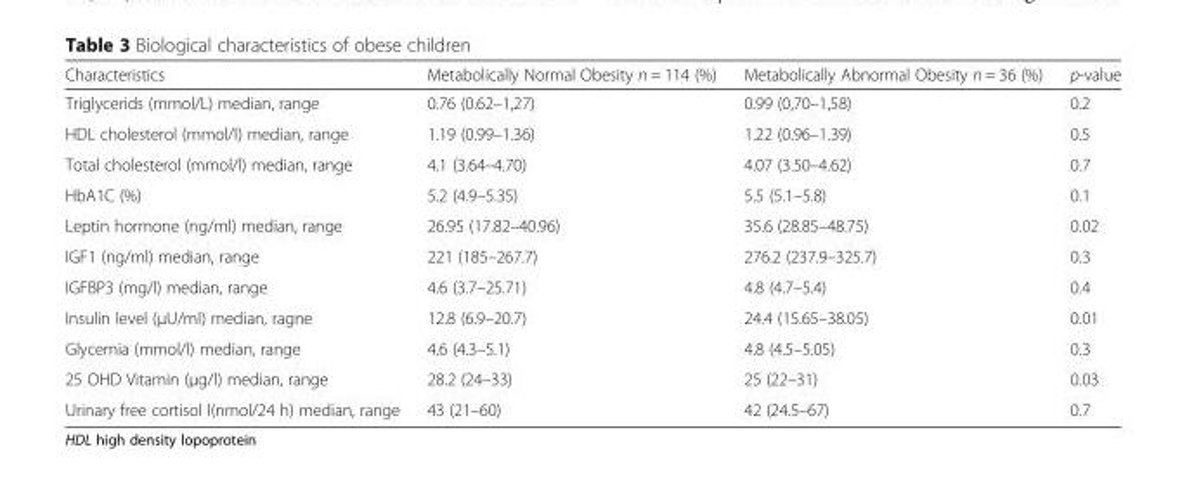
<table><thead><tr><td>Characteristics</td><td>Metabolically Normal Obesity n = 114 (%)</td><td>Metabolically Abnormal Obesity n = 36 (%)</td><td>p-value</td></tr></thead><tbody><tr><td>Triglycerids (mmol/L) median, range</td><td>0.76 (0.62–1,27)</td><td>0.99 (0,70–1,58)</td><td>0.2</td></tr><tr><td>HDL cholesterol (mmol/l) median, range</td><td>1.19 (0.99–1.36)</td><td>1.22 (0.96–1.39)</td><td>0.5</td></tr><tr><td>Total cholesterol (mmol/l) median, range</td><td>4.1 (3.64–4.70)</td><td>4.07 (3.50–4.62)</td><td>0.7</td></tr><tr><td>HbA1C (%)</td><td>5.2 (4.9–5.35)</td><td>5.5 (5.1–5.8)</td><td>0.1</td></tr><tr><td>Leptin hormone (ng/ml) median, range</td><td>26.95 (17.82–40.96)</td><td>35.6 (28.85–48.75)</td><td>0.02</td></tr><tr><td>IGF1 (ng/ml) median, range</td><td>221 (185–267.7)</td><td>276.2 (237.9–325.7)</td><td>0.3</td></tr><tr><td>IGFBP3 (mg/l) median, range</td><td>4.6 (3.7–25.71)</td><td>4.8 (4.7–5.4)</td><td>0.4</td></tr><tr><td>Insulin level (μU/ml) median, ragne</td><td>12.8 (6.9–20.7)</td><td>24.4 (15.65–38.05)</td><td>0.01</td></tr><tr><td>Glycemia (mmol/l) median, range</td><td>4.6 (4.3–5.1)</td><td>4.8 (4.5–5.05)</td><td>0.3</td></tr><tr><td>25 OHD Vitamin (μg/l) median, range</td><td>28.2 (24–33)</td><td>25 (22–31)</td><td>0.03</td></tr><tr><td>Urinary free cortisol l(nmol/24 h) median, range</td><td>43 (21–60)</td><td>42 (24.5–67)</td><td>0.7</td></tr></tbody></table>